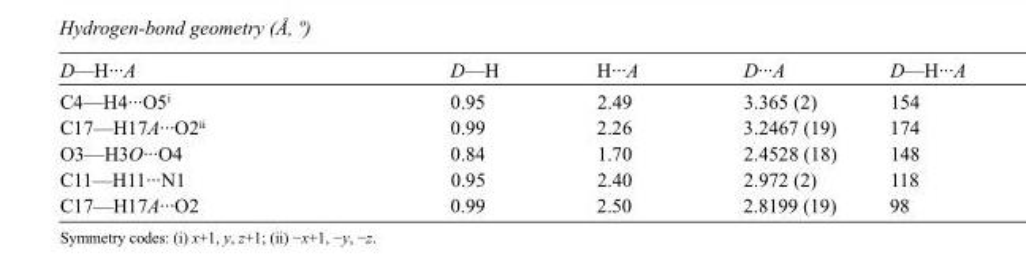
<table><tbody><tr><td>D—H···A</td><td>D—H</td><td>H···A</td><td>D···A</td><td>D—H···A</td></tr><tr><td>C4—H4···O5<sup>i</sup></td><td>0.95</td><td>2.49</td><td>3.365 (2)</td><td>154</td></tr><tr><td>C17—H17A···O2<sup>ii</sup></td><td>0.99</td><td>2.26</td><td>3.2467 (19)</td><td>174</td></tr><tr><td>O3—H3O···O4</td><td>0.84</td><td>1.70</td><td>2.4528 (18)</td><td>148</td></tr><tr><td>C11—H11···N1</td><td>0.95</td><td>2.40</td><td>2.972 (2)</td><td>118</td></tr><tr><td>C17—H17A···O2</td><td>0.99</td><td>2.50</td><td>2.8199 (19)</td><td>98</td></tr></tbody></table>